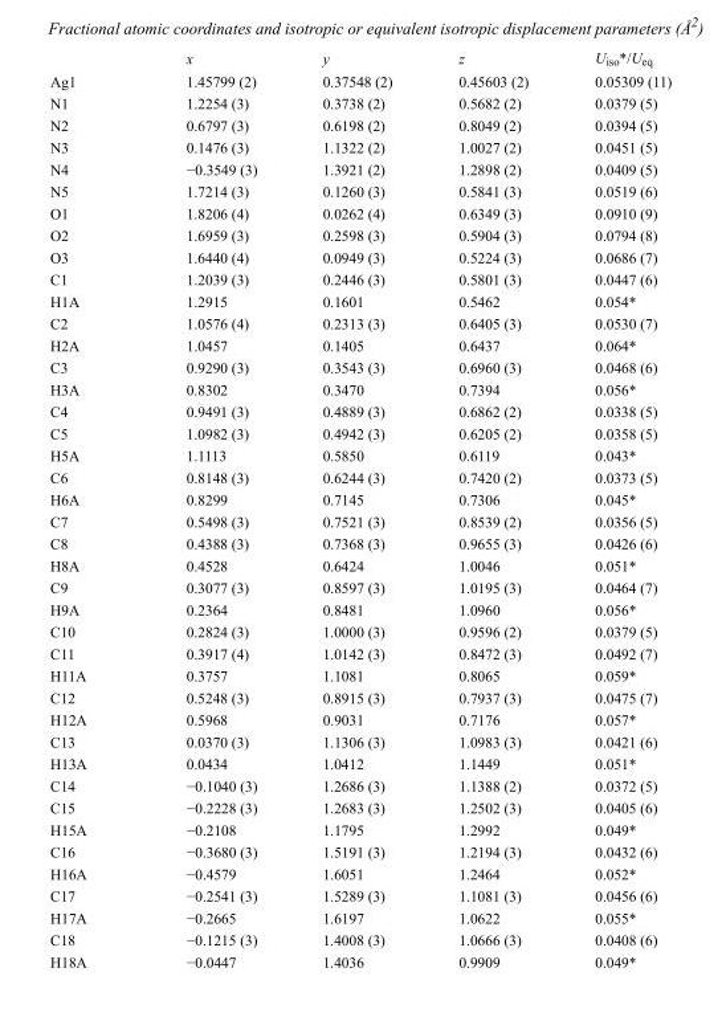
<table><thead><tr><td></td><td>x</td><td>y</td><td>z</td><td>U<sub>iso</sub>*/U<sub>eq</sub></td></tr></thead><tbody><tr><td>Ag1</td><td>1.45799 (2)</td><td>0.37548 (2)</td><td>0.45603 (2)</td><td>0.05309 (11)</td></tr><tr><td>N1</td><td>1.2254 (3)</td><td>0.3738 (2)</td><td>0.5682 (2)</td><td>0.0379 (5)</td></tr><tr><td>N2</td><td>0.6797 (3)</td><td>0.6198 (2)</td><td>0.8049 (2)</td><td>0.0394 (5)</td></tr><tr><td>N3</td><td>0.1476 (3)</td><td>1.1322 (2)</td><td>1.0027 (2)</td><td>0.0451 (5)</td></tr><tr><td>N4</td><td>−0.3549 (3)</td><td>1.3921 (2)</td><td>1.2898 (2)</td><td>0.0409 (5)</td></tr><tr><td>N5</td><td>1.7214 (3)</td><td>0.1260 (3)</td><td>0.5841 (3)</td><td>0.0519 (6)</td></tr><tr><td>O1</td><td>1.8206 (4)</td><td>0.0262 (4)</td><td>0.6349 (3)</td><td>0.0910 (9)</td></tr><tr><td>O2</td><td>1.6959 (3)</td><td>0.2598 (3)</td><td>0.5904 (3)</td><td>0.0794 (8)</td></tr><tr><td>O3</td><td>1.6440 (4)</td><td>0.0949 (3)</td><td>0.5224 (3)</td><td>0.0686 (7)</td></tr><tr><td>C1</td><td>1.2039 (3)</td><td>0.2446 (3)</td><td>0.5801 (3)</td><td>0.0447 (6)</td></tr><tr><td>H1A</td><td>1.2915</td><td>0.1601</td><td>0.5462</td><td>0.054*</td></tr><tr><td>C2</td><td>1.0576 (4)</td><td>0.2313 (3)</td><td>0.6405 (3)</td><td>0.0530 (7)</td></tr><tr><td>H2A</td><td>1.0457</td><td>0.1405</td><td>0.6437</td><td>0.064*</td></tr><tr><td>C3</td><td>0.9290 (3)</td><td>0.3543 (3)</td><td>0.6960 (3)</td><td>0.0468 (6)</td></tr><tr><td>H3A</td><td>0.8302</td><td>0.3470</td><td>0.7394</td><td>0.056*</td></tr><tr><td>C4</td><td>0.9491 (3)</td><td>0.4889 (3)</td><td>0.6862 (2)</td><td>0.0338 (5)</td></tr><tr><td>C5</td><td>1.0982 (3)</td><td>0.4942 (3)</td><td>0.6205 (2)</td><td>0.0358 (5)</td></tr><tr><td>H5A</td><td>1.1113</td><td>0.5850</td><td>0.6119</td><td>0.043*</td></tr><tr><td>C6</td><td>0.8148 (3)</td><td>0.6244 (3)</td><td>0.7420 (2)</td><td>0.0373 (5)</td></tr><tr><td>H6A</td><td>0.8299</td><td>0.7145</td><td>0.7306</td><td>0.045*</td></tr><tr><td>C7</td><td>0.5498 (3)</td><td>0.7521 (3)</td><td>0.8539 (2)</td><td>0.0356 (5)</td></tr><tr><td>C8</td><td>0.4388 (3)</td><td>0.7368 (3)</td><td>0.9655 (3)</td><td>0.0426 (6)</td></tr><tr><td>H8A</td><td>0.4528</td><td>0.6424</td><td>1.0046</td><td>0.051*</td></tr><tr><td>C9</td><td>0.3077 (3)</td><td>0.8597 (3)</td><td>1.0195 (3)</td><td>0.0464 (7)</td></tr><tr><td>H9A</td><td>0.2364</td><td>0.8481</td><td>1.0960</td><td>0.056*</td></tr><tr><td>C10</td><td>0.2824 (3)</td><td>1.0000 (3)</td><td>0.9596 (2)</td><td>0.0379 (5)</td></tr><tr><td>C11</td><td>0.3917 (4)</td><td>1.0142 (3)</td><td>0.8472 (3)</td><td>0.0492 (7)</td></tr><tr><td>H11A</td><td>0.3757</td><td>1.1081</td><td>0.8065</td><td>0.059*</td></tr><tr><td>C12</td><td>0.5248 (3)</td><td>0.8915 (3)</td><td>0.7937 (3)</td><td>0.0475 (7)</td></tr><tr><td>H12A</td><td>0.5968</td><td>0.9031</td><td>0.7176</td><td>0.057*</td></tr><tr><td>C13</td><td>0.0370 (3)</td><td>1.1306 (3)</td><td>1.0983 (3)</td><td>0.0421 (6)</td></tr><tr><td>H13A</td><td>0.0434</td><td>1.0412</td><td>1.1449</td><td>0.051*</td></tr><tr><td>C14</td><td>−0.1040 (3)</td><td>1.2686 (3)</td><td>1.1388 (2)</td><td>0.0372 (5)</td></tr><tr><td>C15</td><td>−0.2228 (3)</td><td>1.2683 (3)</td><td>1.2502 (3)</td><td>0.0405 (6)</td></tr><tr><td>H15A</td><td>−0.2108</td><td>1.1795</td><td>1.2992</td><td>0.049*</td></tr><tr><td>C16</td><td>−0.3680 (3)</td><td>1.5191 (3)</td><td>1.2194 (3)</td><td>0.0432 (6)</td></tr><tr><td>H16A</td><td>−0.4579</td><td>1.6051</td><td>1.2464</td><td>0.052*</td></tr><tr><td>C17</td><td>−0.2541 (3)</td><td>1.5289 (3)</td><td>1.1081 (3)</td><td>0.0456 (6)</td></tr><tr><td>H17A</td><td>−0.2665</td><td>1.6197</td><td>1.0622</td><td>0.055*</td></tr><tr><td>C18</td><td>−0.1215 (3)</td><td>1.4008 (3)</td><td>1.0666 (3)</td><td>0.0408 (6)</td></tr><tr><td>H18A</td><td>−0.0447</td><td>1.4036</td><td>0.9909</td><td>0.049*</td></tr></tbody></table>